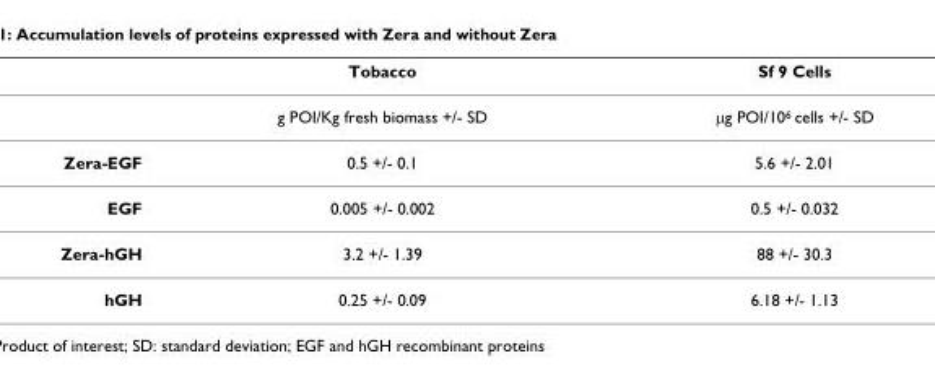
<table><thead><tr><td></td><td>Tobacco</td><td>Sf 9 Cells</td></tr></thead><tbody><tr><td></td><td>g POI/Kg fresh biomass +/- SD</td><td>μg POI/10<sup>6</sup> cells +/- SD</td></tr><tr><td>Zera-EGF</td><td>0.5 +/- 0.1</td><td>5.6 +/- 2.01</td></tr><tr><td>EGF</td><td>0.005 +/- 0.002</td><td>0.5 +/- 0.032</td></tr><tr><td>Zera-hGH</td><td>3.2 +/- 1.39</td><td>88 +/- 30.3</td></tr><tr><td>hGH</td><td>0.25 +/- 0.09</td><td>6.18 +/- 1.13</td></tr></tbody></table>